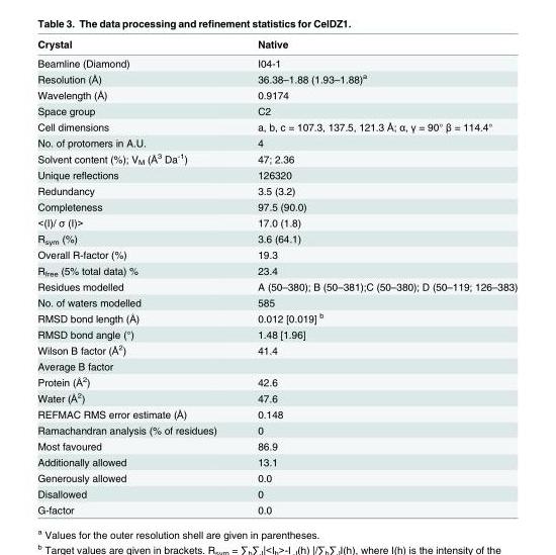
<table><thead><tr><td>Crystal</td><td>Native</td></tr></thead><tbody><tr><td>Beamline (Diamond)</td><td>I04-1</td></tr><tr><td>Resolution (Å)</td><td>36.38–1.88 (1.93–1.88)<sup>a</sup></td></tr><tr><td>Wavelength (Å)</td><td>0.9174</td></tr><tr><td>Space group</td><td>C2</td></tr><tr><td>Cell dimensions</td><td>a, b, c = 107.3, 137.5, 121.3 Å; α, γ = 90° β = 114.4°</td></tr><tr><td>No. of protomers in A.U.</td><td>4</td></tr><tr><td>Solvent content (%); V<sub>M</sub> (Å<sup>3</sup> Da<sup>-1</sup>)</td><td>47; 2.36</td></tr><tr><td>Unique reflections</td><td>126320</td></tr><tr><td>Redundancy</td><td>3.5 (3.2)</td></tr><tr><td>Completeness</td><td>97.5 (90.0)</td></tr><tr><td>&lt;(I)/ σ (I)&gt;</td><td>17.0 (1.8)</td></tr><tr><td>R<sub>sym</sub> (%)</td><td>3.6 (64.1)</td></tr><tr><td>Overall R-factor (%)</td><td>19.3</td></tr><tr><td>R<sub>free</sub> (5% total data) %</td><td>23.4</td></tr><tr><td>Residues modelled</td><td>A (50–380); B (50–381);C (50–380); D (50–119; 126–383)</td></tr><tr><td>No. of waters modelled</td><td>585</td></tr><tr><td>RMSD bond length (Å)</td><td>0.012 [0.019] <sup>b</sup></td></tr><tr><td>RMSD bond angle (°)</td><td>1.48 [1.96]</td></tr><tr><td>Wilson B factor (Å<sup>2</sup>)</td><td>41.4</td></tr><tr><td colspan="2">Average B factor</td></tr><tr><td>Protein (Å<sup>2</sup>)</td><td>42.6</td></tr><tr><td>Water (Å<sup>2</sup>)</td><td>47.6</td></tr><tr><td>REFMAC RMS error estimate (Å)</td><td>0.148</td></tr><tr><td>Ramachandran analysis (% of residues)</td><td>0</td></tr><tr><td>Most favoured</td><td>86.9</td></tr><tr><td>Additionally allowed</td><td>13.1</td></tr><tr><td>Generously allowed</td><td>0.0</td></tr><tr><td>Disallowed</td><td>0</td></tr><tr><td>G-factor</td><td>0.0</td></tr></tbody></table>